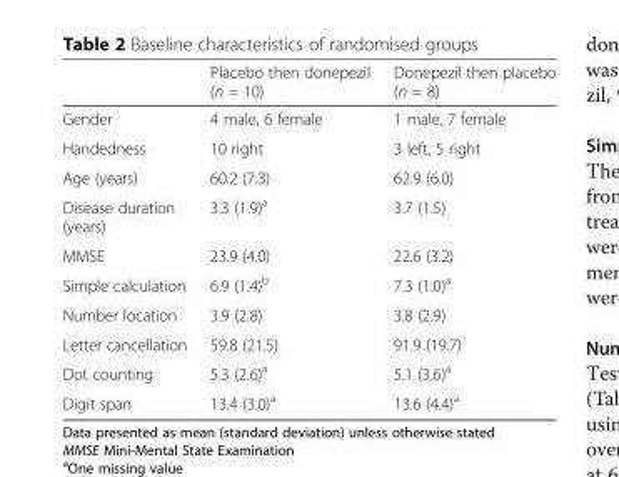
<table><thead><tr><td></td><td>Placebo then donepezil (n = 10)</td><td>Donepezil then placebo (n = 8)</td></tr></thead><tbody><tr><td>Gender</td><td>4 male, 6 female</td><td>1 male, 7 female</td></tr><tr><td>Handedness</td><td>10 right</td><td>3 left, 5 right</td></tr><tr><td>Age (years)</td><td>60.2 (7.3)</td><td>62.9 (6.0)</td></tr><tr><td>Disease duration (years)</td><td>3.3 (1.9)<sup>a</sup></td><td>3.7 (1.5)</td></tr><tr><td>MMSE</td><td>23.9 (4.0)</td><td>22.6 (3.2)</td></tr><tr><td>Simple calculation</td><td>6.9 (1.4)<sup>b</sup></td><td>7.3 (1.0)<sup>a</sup></td></tr><tr><td>Number location</td><td>3.9 (2.8)</td><td>3.8 (2.9)</td></tr><tr><td>Letter cancellation</td><td>59.8 (21.5)</td><td>91.9 (19.7)</td></tr><tr><td>Dot counting</td><td>5.3 (2.6)<sup>a</sup></td><td>5.1 (3.6)<sup>a</sup></td></tr><tr><td>Digit span</td><td>13.4 (3.0)<sup>a</sup></td><td>13.6 (4.4)<sup>a</sup></td></tr></tbody></table>